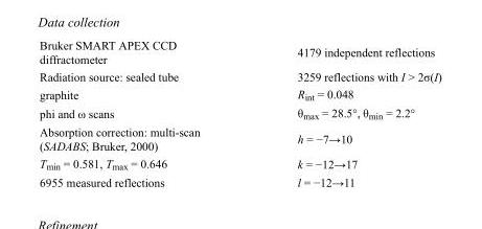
<table><tbody><tr><td>Bruker SMART APEX CCD diffractometer</td><td>4179 independent reflections</td></tr><tr><td>Radiation source: sealed tube</td><td>3259 reflections with I &gt; 2σ(I)</td></tr><tr><td>graphite</td><td>R<sub>int</sub> = 0.048</td></tr><tr><td>phi and ω scans</td><td>θ<sub>max</sub> = 28.5°, θ<sub>min</sub> = 2.2°</td></tr><tr><td>Absorption correction: multi-scan (SADABS; Bruker, 2000)</td><td>h = −7→10</td></tr><tr><td>T<sub>min</sub> = 0.581, T<sub>max</sub> = 0.646</td><td>k = −12→17</td></tr><tr><td>6955 measured reflections</td><td>l = −12→11</td></tr></tbody></table>